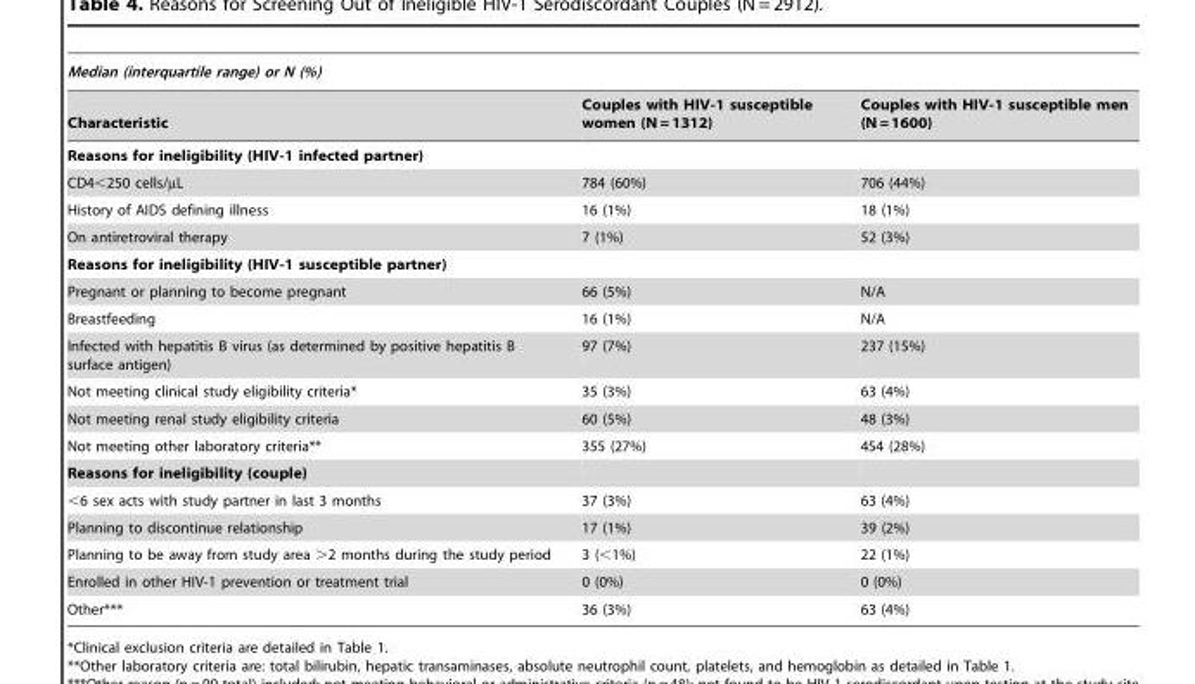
<table><thead><tr><td colspan="3">Median (interquartile range) or N (%)</td></tr><tr><td>Characteristic</td><td>Couples with HIV-1 susceptible women (N = 1312)</td><td>Couples with HIV-1 susceptible men (N = 1600)</td></tr></thead><tbody><tr><td colspan="3">Reasons for ineligibility (HIV-1 infected partner)</td></tr><tr><td>CD4&lt;250 cells/µL</td><td>784 (60%)</td><td>706 (44%)</td></tr><tr><td>History of AIDS defining illness</td><td>16 (1%)</td><td>18 (1%)</td></tr><tr><td>On antiretroviral therapy</td><td>7 (1%)</td><td>52 (3%)</td></tr><tr><td colspan="3">Reasons for ineligibility (HIV-1 susceptible partner)</td></tr><tr><td>Pregnant or planning to become pregnant</td><td>66 (5%)</td><td>N/A</td></tr><tr><td>Breastfeeding</td><td>16 (1%)</td><td>N/A</td></tr><tr><td>Infected with hepatitis B virus (as determined by positive hepatitis B surface antigen)</td><td>97 (7%)</td><td>237 (15%)</td></tr><tr><td>Not meeting clinical study eligibility criteria*</td><td>35 (3%)</td><td>63 (4%)</td></tr><tr><td>Not meeting renal study eligibility criteria</td><td>60 (5%)</td><td>48 (3%)</td></tr><tr><td>Not meeting other laboratory criteria**</td><td>355 (27%)</td><td>454 (28%)</td></tr><tr><td colspan="3">Reasons for ineligibility (couple)</td></tr><tr><td>&lt;6 sex acts with study partner in last 3 months</td><td>37 (3%)</td><td>63 (4%)</td></tr><tr><td>Planning to discontinue relationship</td><td>17 (1%)</td><td>39 (2%)</td></tr><tr><td>Planning to be away from study area &gt;2 months during the study period</td><td>3 (&lt;1%)</td><td>22 (1%)</td></tr><tr><td>Enrolled in other HIV-1 prevention or treatment trial</td><td>0 (0%)</td><td>0 (0%)</td></tr><tr><td>Other***</td><td>36 (3%)</td><td>63 (4%)</td></tr></tbody></table>